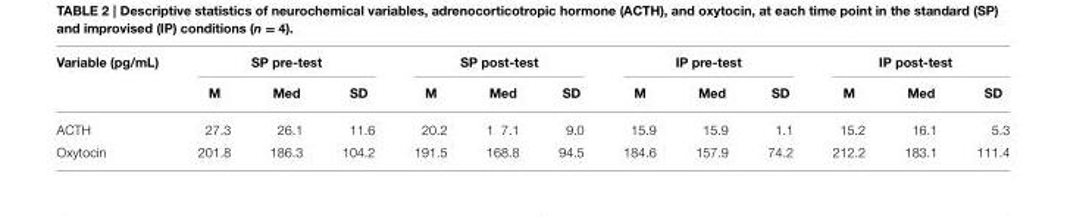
<table><thead><tr><td rowspan="2">Variable (pg/mL)</td><td colspan="3">SP pre-test</td><td colspan="3">SP post-test</td><td colspan="3">IP pre-test</td><td colspan="3">IP post-test</td></tr><tr><td>M</td><td>Med</td><td>SD</td><td>M</td><td>Med</td><td>SD</td><td>M</td><td>Med</td><td>SD</td><td>M</td><td>Med</td><td>SD</td></tr></thead><tbody><tr><td>ACTH</td><td>27.3</td><td>26.1</td><td>11.6</td><td>20.2</td><td>1 7.1</td><td>9.0</td><td>15.9</td><td>15.9</td><td>1.1</td><td>15.2</td><td>16.1</td><td>5.3</td></tr><tr><td>Oxytocin</td><td>201.8</td><td>186.3</td><td>104.2</td><td>191.5</td><td>168.8</td><td>94.5</td><td>184.6</td><td>157.9</td><td>74.2</td><td>212.2</td><td>183.1</td><td>111.4</td></tr></tbody></table>